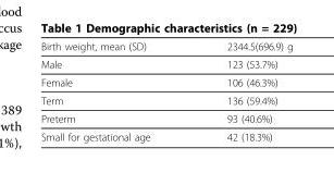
<table><thead><tr><td>Birth weight, mean (SD)</td><td>2344.5(696.9) g</td></tr></thead><tbody><tr><td>Male</td><td>123 (53.7%)</td></tr><tr><td>Female</td><td>106 (46.3%)</td></tr><tr><td>Term</td><td>136 (59.4%)</td></tr><tr><td>Preterm</td><td>93 (40.6%)</td></tr><tr><td>Small for gestational age</td><td>42 (18.3%)</td></tr></tbody></table>